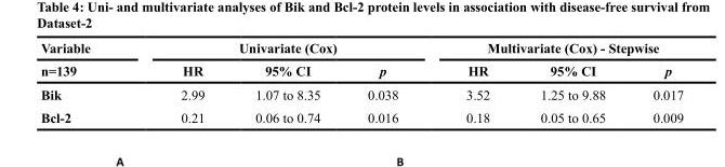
<table><thead><tr><td rowspan="2">Variable n=139</td><td colspan="3">Univariate (Cox)</td><td colspan="3">Multivariate (Cox) - Stepwise</td></tr><tr><td>HR</td><td>95% CI</td><td>p</td><td>HR</td><td>95% CI</td><td>p</td></tr></thead><tbody><tr><td>Bik</td><td>2.99</td><td>1.07 to 8.35</td><td>0.038</td><td>3.52</td><td>1.25 to 9.88</td><td>0.017</td></tr><tr><td>Bcl-2</td><td>0.21</td><td>0.06 to 0.74</td><td>0.016</td><td>0.18</td><td>0.05 to 0.65</td><td>0.009</td></tr></tbody></table>